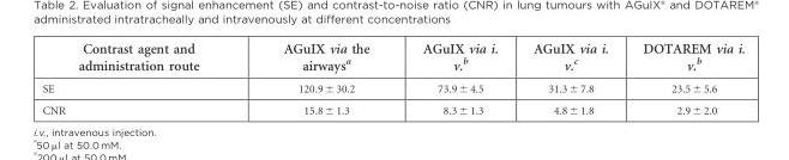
<table><thead><tr><td>Contrast agent and administration route</td><td>AGuIX via the airways<sup>a</sup></td><td>AGuIX via i. v.<sup>b</sup></td><td>AGuIX via i. v.<sup>c</sup></td><td>DOTAREM via i. v.<sup>b</sup></td></tr></thead><tbody><tr><td>SE</td><td>120.9 ± 30.2</td><td>73.9 ± 4.5</td><td>31.3 ± 7.8</td><td>23.5 ± 5.6</td></tr><tr><td>CNR</td><td>15.8 ± 1.3</td><td>8.3 ± 1.3</td><td>4.8 ± 1.8</td><td>2.9 ± 2.0</td></tr></tbody></table>